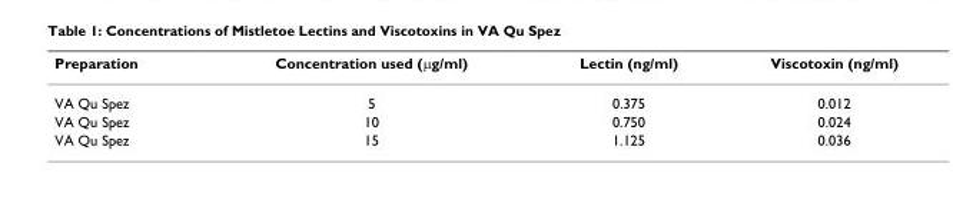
<table><thead><tr><td>Preparation</td><td>Concentration used (μg/ml)</td><td>Lectin (ng/ml)</td><td>Viscotoxin (ng/ml)</td></tr></thead><tbody><tr><td>VA Qu Spez</td><td>5</td><td>0.375</td><td>0.012</td></tr><tr><td>VA Qu Spez</td><td>10</td><td>0.750</td><td>0.024</td></tr><tr><td>VA Qu Spez</td><td>15</td><td>1.125</td><td>0.036</td></tr></tbody></table>